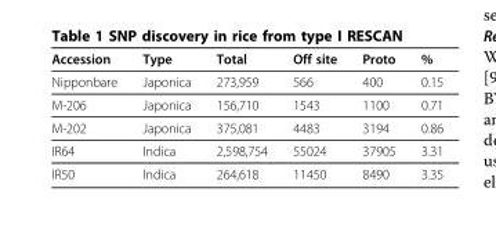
<table><thead><tr><td>Accession</td><td>Type</td><td>Total</td><td>Off site</td><td>Proto</td><td>%</td></tr></thead><tbody><tr><td>Nipponbare</td><td>Japonica</td><td>273,959</td><td>566</td><td>400</td><td>0.15</td></tr><tr><td>M-206</td><td>Japonica</td><td>156,710</td><td>1543</td><td>1100</td><td>0.71</td></tr><tr><td>M-202</td><td>Japonica</td><td>375,081</td><td>4483</td><td>3194</td><td>0.86</td></tr><tr><td>IR64</td><td>Indica</td><td>2,598,754</td><td>55024</td><td>37905</td><td>3.31</td></tr><tr><td>IR50</td><td>Indica</td><td>264,618</td><td>11450</td><td>8490</td><td>3.35</td></tr></tbody></table>